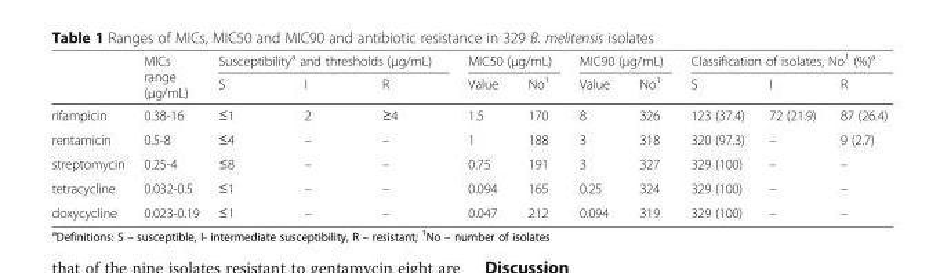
<table><thead><tr><td rowspan="2"></td><td rowspan="2">MICs range (μg/mL)</td><td colspan="3">Susceptibility<sup>a</sup> and thresholds (μg/mL)</td><td colspan="2">MIC50 (μg/mL)</td><td colspan="2">MIC90 (μg/mL)</td><td colspan="3">Classification of isolates, No<sup>1</sup> (%)<sup>a</sup></td></tr><tr><td>S</td><td>I</td><td>R</td><td>Value</td><td>No<sup>1</sup></td><td>Value</td><td>No<sup>1</sup></td><td>S</td><td>I</td><td>R</td></tr></thead><tbody><tr><td>rifampicin</td><td>0.38-16</td><td>≤1</td><td>2</td><td>≥4</td><td>1.5</td><td>170</td><td>8</td><td>326</td><td>123 (37.4)</td><td>72 (21.9)</td><td>87 (26.4)</td></tr><tr><td>rentamicin</td><td>0.5-8</td><td>≤4</td><td>–</td><td>–</td><td>1</td><td>188</td><td>3</td><td>318</td><td>320 (97.3)</td><td>–</td><td>9 (2.7)</td></tr><tr><td>streptomycin</td><td>0.25-4</td><td>≤8</td><td>–</td><td>–</td><td>0.75</td><td>191</td><td>3</td><td>327</td><td>329 (100)</td><td>–</td><td>–</td></tr><tr><td>tetracycline</td><td>0.032-0.5</td><td>≤1</td><td>–</td><td>–</td><td>0.094</td><td>165</td><td>0.25</td><td>324</td><td>329 (100)</td><td>–</td><td>–</td></tr><tr><td>doxycycline</td><td>0.023-0.19</td><td>≤1</td><td>–</td><td>–</td><td>0.047</td><td>212</td><td>0.094</td><td>319</td><td>329 (100)</td><td>–</td><td>–</td></tr></tbody></table>